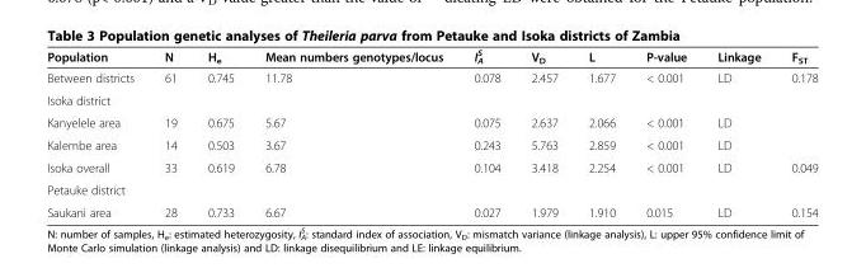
<table><thead><tr><td>Population</td><td>N</td><td>H<sub>e</sub></td><td>Mean numbers genotypes/locus</td><td>I<sub>A</sub> <sup>S</sup></td><td>V<sub>D</sub></td><td>L</td><td>P-value</td><td>Linkage</td><td>F<sub>ST</sub></td></tr></thead><tbody><tr><td>Between districts</td><td>61</td><td>0.745</td><td>11.78</td><td>0.078</td><td>2.457</td><td>1.677</td><td>&lt; 0.001</td><td>LD</td><td>0.178</td></tr><tr><td colspan="10">Isoka district</td></tr><tr><td>Kanyelele area</td><td>19</td><td>0.675</td><td>5.67</td><td>0.075</td><td>2.637</td><td>2.066</td><td>&lt; 0.001</td><td>LD</td><td></td></tr><tr><td>Kalembe area</td><td>14</td><td>0.503</td><td>3.67</td><td>0.243</td><td>5.763</td><td>2.859</td><td>&lt; 0.001</td><td>LD</td><td></td></tr><tr><td>Isoka overall</td><td>33</td><td>0.619</td><td>6.78</td><td>0.104</td><td>3.418</td><td>2.254</td><td>&lt; 0.001</td><td>LD</td><td>0.049</td></tr><tr><td colspan="10">Petauke district</td></tr><tr><td>Saukani area</td><td>28</td><td>0.733</td><td>6.67</td><td>0.027</td><td>1.979</td><td>1.910</td><td>0.015</td><td>LD</td><td>0.154</td></tr></tbody></table>